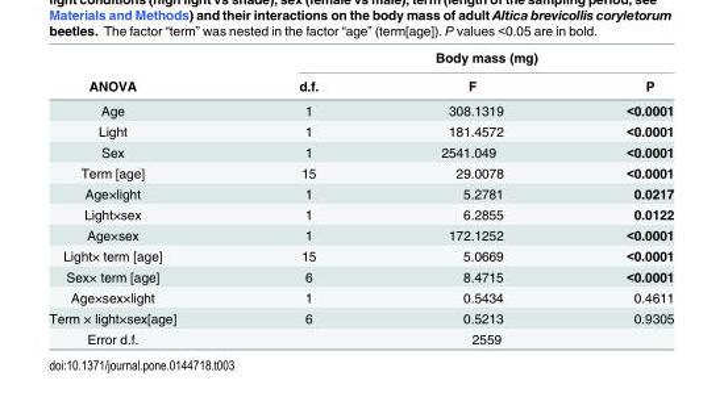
<table><thead><tr><td rowspan="2">ANOVA</td><td colspan="3">Body mass (mg)</td></tr><tr><td>d.f.</td><td>F</td><td>P</td></tr></thead><tbody><tr><td>Age</td><td>1</td><td>308.1319</td><td>&lt;0.0001</td></tr><tr><td>Light</td><td>1</td><td>181.4572</td><td>&lt;0.0001</td></tr><tr><td>Sex</td><td>1</td><td>2541.049</td><td>&lt;0.0001</td></tr><tr><td>Term [age]</td><td>15</td><td>29.0078</td><td>&lt;0.0001</td></tr><tr><td>Age×light</td><td>1</td><td>5.2781</td><td>0.0217</td></tr><tr><td>Light×sex</td><td>1</td><td>6.2855</td><td>0.0122</td></tr><tr><td>Age×sex</td><td>1</td><td>172.1252</td><td>&lt;0.0001</td></tr><tr><td>Light× term [age]</td><td>15</td><td>5.0669</td><td>&lt;0.0001</td></tr><tr><td>Sex× term [age]</td><td>6</td><td>8.4715</td><td>&lt;0.0001</td></tr><tr><td>Age×sex×light</td><td>1</td><td>0.5434</td><td>0.4611</td></tr><tr><td>Term × light×sex[age]</td><td>6</td><td>0.5213</td><td>0.9305</td></tr><tr><td>Error d.f.</td><td colspan="3">2559</td></tr></tbody></table>